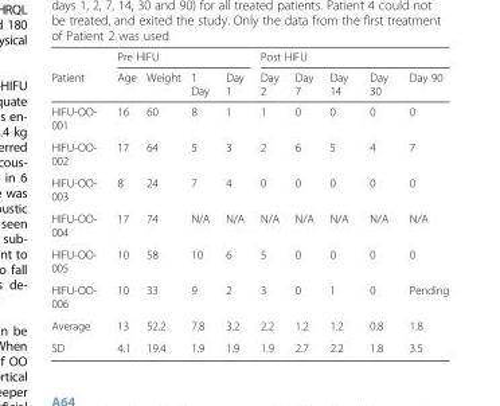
<table><thead><tr><td rowspan="2">Patient</td><td colspan="4">Pre HIFU</td><td colspan="5">Post HIFU</td></tr><tr><td>Age</td><td>Weight</td><td>1 Day</td><td>Day 1</td><td>Day 2</td><td>Day 7</td><td>Day 14</td><td>Day 30</td><td>Day 90</td></tr></thead><tbody><tr><td>HIFU-OO- 001</td><td>16</td><td>60</td><td>8</td><td>1</td><td>1</td><td>0</td><td>0</td><td>0</td><td>0</td></tr><tr><td>HIFU-OO- 002</td><td>17</td><td>64</td><td>5</td><td>3</td><td>2</td><td>6</td><td>5</td><td>4</td><td>7</td></tr><tr><td>HIFU-OO- 003</td><td>8</td><td>24</td><td>7</td><td>4</td><td>0</td><td>0</td><td>0</td><td>0</td><td>0</td></tr><tr><td>HIFU-OO- 004</td><td>17</td><td>74</td><td>N/A</td><td>N/A</td><td>N/A</td><td>N/A</td><td>N/A</td><td>N/A</td><td>N/A</td></tr><tr><td>HIFU-OO- 005</td><td>10</td><td>58</td><td>10</td><td>6</td><td>5</td><td>0</td><td>0</td><td>0</td><td>0</td></tr><tr><td>HIFU-OO- 006</td><td>10</td><td>33</td><td>9</td><td>2</td><td>3</td><td>0</td><td>1</td><td>0</td><td>Pending</td></tr><tr><td>Average</td><td>13</td><td>52.2</td><td>7.8</td><td>3.2</td><td>2.2</td><td>1.2</td><td>1.2</td><td>0.8</td><td>1.8</td></tr><tr><td>SD</td><td>4.1</td><td>19.4</td><td>1.9</td><td>1.9</td><td>1.9</td><td>2.7</td><td>2.2</td><td>1.8</td><td>3.5</td></tr></tbody></table>